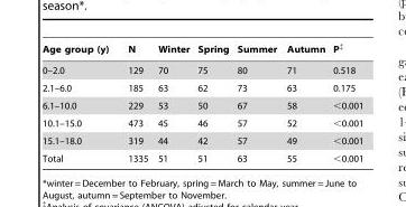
<table><thead><tr><td>Age group (y)</td><td>N</td><td>Winter</td><td>Spring</td><td>Summer</td><td>Autumn</td><td>P‡</td></tr></thead><tbody><tr><td>0–2.0</td><td>129</td><td>70</td><td>75</td><td>80</td><td>71</td><td>0.518</td></tr><tr><td>2.1–6.0</td><td>185</td><td>63</td><td>62</td><td>73</td><td>63</td><td>0.175</td></tr><tr><td>6.1–10.0</td><td>229</td><td>53</td><td>50</td><td>67</td><td>58</td><td>&lt;0.001</td></tr><tr><td>10.1–15.0</td><td>473</td><td>45</td><td>46</td><td>57</td><td>52</td><td>&lt;0.001</td></tr><tr><td>15.1–18.0</td><td>319</td><td>44</td><td>42</td><td>57</td><td>49</td><td>&lt;0.001</td></tr><tr><td>Total</td><td>1335</td><td>51</td><td>51</td><td>63</td><td>55</td><td>&lt;0.001</td></tr></tbody></table>